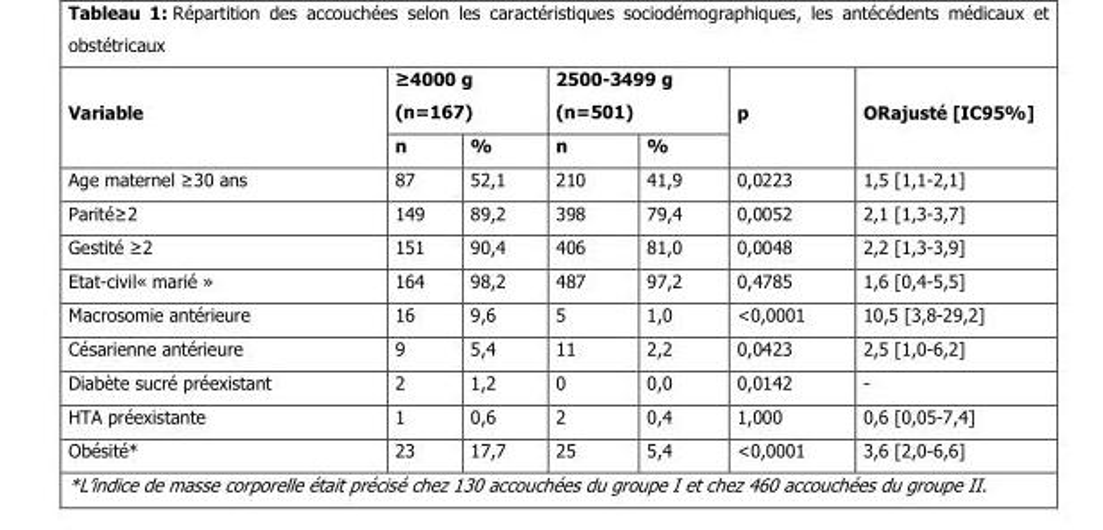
<table><thead><tr><td rowspan="2">Variable</td><td colspan="2">≥4000 g (n=167)</td><td colspan="2">2500-3499 g (n=501)</td><td rowspan="2">p</td><td rowspan="2">ORajusté [IC95%]</td></tr><tr><td>n</td><td>%</td><td>n</td><td>%</td></tr></thead><tbody><tr><td>Age maternel ≥30 ans</td><td>87</td><td>52,1</td><td>210</td><td>41,9</td><td>0,0223</td><td>1,5 [1,1-2,1]</td></tr><tr><td>Parité≥2</td><td>149</td><td>89,2</td><td>398</td><td>79,4</td><td>0,0052</td><td>2,1 [1,3-3,7]</td></tr><tr><td>Gestité ≥2</td><td>151</td><td>90,4</td><td>406</td><td>81,0</td><td>0,0048</td><td>2,2 [1,3-3,9]</td></tr><tr><td>Etat-civil« marié »</td><td>164</td><td>98,2</td><td>487</td><td>97,2</td><td>0,4785</td><td>1,6 [0,4-5,5]</td></tr><tr><td>Macrosomie antérieure</td><td>16</td><td>9,6</td><td>5</td><td>1,0</td><td>&lt;0,0001</td><td>10,5 [3,8-29,2]</td></tr><tr><td>Césarienne antérieure</td><td>9</td><td>5,4</td><td>11</td><td>2,2</td><td>0,0423</td><td>2,5 [1,0-6,2]</td></tr><tr><td>Diabète sucré préexistant</td><td>2</td><td>1,2</td><td>0</td><td>0,0</td><td>0,0142</td><td>-</td></tr><tr><td>HTA préexistante</td><td>1</td><td>0,6</td><td>2</td><td>0,4</td><td>1,000</td><td>0,6 [0,05-7,4]</td></tr><tr><td>Obésité*</td><td>23</td><td>17,7</td><td>25</td><td>5,4</td><td>&lt;0,0001</td><td>3,6 [2,0-6,6]</td></tr></tbody></table>